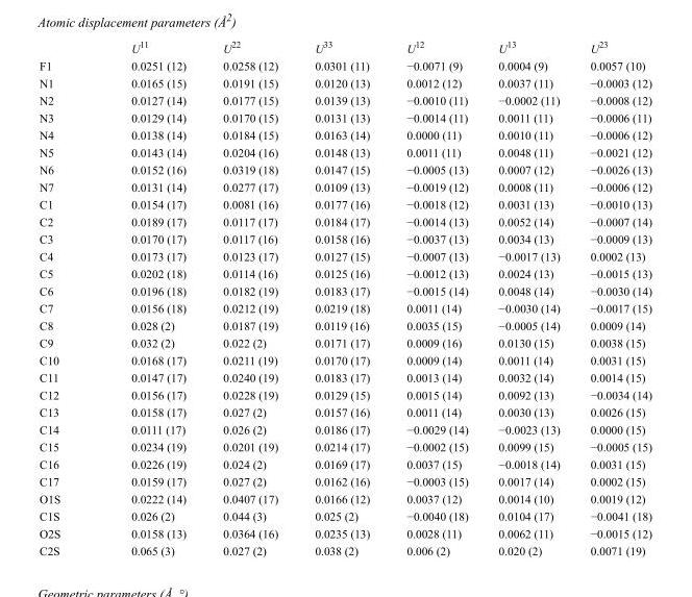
<table><thead><tr><td></td><td>U<sup>11</sup></td><td>U<sup>22</sup></td><td>U<sup>33</sup></td><td>U<sup>12</sup></td><td>U<sup>13</sup></td><td>U<sup>23</sup></td></tr></thead><tbody><tr><td>F1</td><td>0.0251 (12)</td><td>0.0258 (12)</td><td>0.0301 (11)</td><td>−0.0071 (9)</td><td>0.0004 (9)</td><td>0.0057 (10)</td></tr><tr><td>N1</td><td>0.0165 (15)</td><td>0.0191 (15)</td><td>0.0120 (13)</td><td>0.0012 (12)</td><td>0.0037 (11)</td><td>−0.0003 (12)</td></tr><tr><td>N2</td><td>0.0127 (14)</td><td>0.0177 (15)</td><td>0.0139 (13)</td><td>−0.0010 (11)</td><td>−0.0002 (11)</td><td>−0.0008 (12)</td></tr><tr><td>N3</td><td>0.0129 (14)</td><td>0.0170 (15)</td><td>0.0131 (13)</td><td>−0.0014 (11)</td><td>0.0011 (11)</td><td>−0.0006 (11)</td></tr><tr><td>N4</td><td>0.0138 (14)</td><td>0.0184 (15)</td><td>0.0163 (14)</td><td>0.0000 (11)</td><td>0.0010 (11)</td><td>−0.0006 (12)</td></tr><tr><td>N5</td><td>0.0143 (14)</td><td>0.0204 (16)</td><td>0.0148 (13)</td><td>0.0011 (11)</td><td>0.0048 (11)</td><td>−0.0021 (12)</td></tr><tr><td>N6</td><td>0.0152 (16)</td><td>0.0319 (18)</td><td>0.0147 (15)</td><td>−0.0005 (13)</td><td>0.0007 (12)</td><td>−0.0026 (13)</td></tr><tr><td>N7</td><td>0.0131 (14)</td><td>0.0277 (17)</td><td>0.0109 (13)</td><td>−0.0019 (12)</td><td>0.0008 (11)</td><td>−0.0006 (12)</td></tr><tr><td>C1</td><td>0.0154 (17)</td><td>0.0081 (16)</td><td>0.0177 (16)</td><td>−0.0018 (12)</td><td>0.0031 (13)</td><td>−0.0010 (13)</td></tr><tr><td>C2</td><td>0.0189 (17)</td><td>0.0117 (17)</td><td>0.0184 (17)</td><td>−0.0014 (13)</td><td>0.0052 (14)</td><td>−0.0007 (14)</td></tr><tr><td>C3</td><td>0.0170 (17)</td><td>0.0117 (16)</td><td>0.0158 (16)</td><td>−0.0037 (13)</td><td>0.0034 (13)</td><td>−0.0009 (13)</td></tr><tr><td>C4</td><td>0.0173 (17)</td><td>0.0123 (17)</td><td>0.0127 (15)</td><td>−0.0007 (13)</td><td>−0.0017 (13)</td><td>0.0002 (13)</td></tr><tr><td>C5</td><td>0.0202 (18)</td><td>0.0114 (16)</td><td>0.0125 (16)</td><td>−0.0012 (13)</td><td>0.0024 (13)</td><td>−0.0015 (13)</td></tr><tr><td>C6</td><td>0.0196 (18)</td><td>0.0182 (19)</td><td>0.0183 (17)</td><td>−0.0015 (14)</td><td>0.0048 (14)</td><td>−0.0030 (14)</td></tr><tr><td>C7</td><td>0.0156 (18)</td><td>0.0212 (19)</td><td>0.0219 (18)</td><td>0.0011 (14)</td><td>−0.0030 (14)</td><td>−0.0017 (15)</td></tr><tr><td>C8</td><td>0.028 (2)</td><td>0.0187 (19)</td><td>0.0119 (16)</td><td>0.0035 (15)</td><td>−0.0005 (14)</td><td>0.0009 (14)</td></tr><tr><td>C9</td><td>0.032 (2)</td><td>0.022 (2)</td><td>0.0171 (17)</td><td>0.0009 (16)</td><td>0.0130 (15)</td><td>0.0038 (15)</td></tr><tr><td>C10</td><td>0.0168 (17)</td><td>0.0211 (19)</td><td>0.0170 (17)</td><td>0.0009 (14)</td><td>0.0011 (14)</td><td>0.0031 (15)</td></tr><tr><td>C11</td><td>0.0147 (17)</td><td>0.0240 (19)</td><td>0.0183 (17)</td><td>0.0013 (14)</td><td>0.0032 (14)</td><td>0.0014 (15)</td></tr><tr><td>C12</td><td>0.0156 (17)</td><td>0.0228 (19)</td><td>0.0129 (15)</td><td>0.0015 (14)</td><td>0.0092 (13)</td><td>−0.0034 (14)</td></tr><tr><td>C13</td><td>0.0158 (17)</td><td>0.027 (2)</td><td>0.0157 (16)</td><td>0.0011 (14)</td><td>0.0030 (13)</td><td>0.0026 (15)</td></tr><tr><td>C14</td><td>0.0111 (17)</td><td>0.026 (2)</td><td>0.0186 (17)</td><td>−0.0029 (14)</td><td>−0.0023 (13)</td><td>0.0000 (15)</td></tr><tr><td>C15</td><td>0.0234 (19)</td><td>0.0201 (19)</td><td>0.0214 (17)</td><td>−0.0002 (15)</td><td>0.0099 (15)</td><td>−0.0005 (15)</td></tr><tr><td>C16</td><td>0.0226 (19)</td><td>0.024 (2)</td><td>0.0169 (17)</td><td>0.0037 (15)</td><td>−0.0018 (14)</td><td>0.0031 (15)</td></tr><tr><td>C17</td><td>0.0159 (17)</td><td>0.027 (2)</td><td>0.0162 (16)</td><td>−0.0003 (15)</td><td>0.0017 (14)</td><td>0.0002 (15)</td></tr><tr><td>O1S</td><td>0.0222 (14)</td><td>0.0407 (17)</td><td>0.0166 (12)</td><td>0.0037 (12)</td><td>0.0014 (10)</td><td>0.0019 (12)</td></tr><tr><td>C1S</td><td>0.026 (2)</td><td>0.044 (3)</td><td>0.025 (2)</td><td>−0.0040 (18)</td><td>0.0104 (17)</td><td>−0.0041 (18)</td></tr><tr><td>O2S</td><td>0.0158 (13)</td><td>0.0364 (16)</td><td>0.0235 (13)</td><td>0.0028 (11)</td><td>0.0062 (11)</td><td>−0.0015 (12)</td></tr><tr><td>C2S</td><td>0.065 (3)</td><td>0.027 (2)</td><td>0.038 (2)</td><td>0.006 (2)</td><td>0.020 (2)</td><td>0.0071 (19)</td></tr></tbody></table>